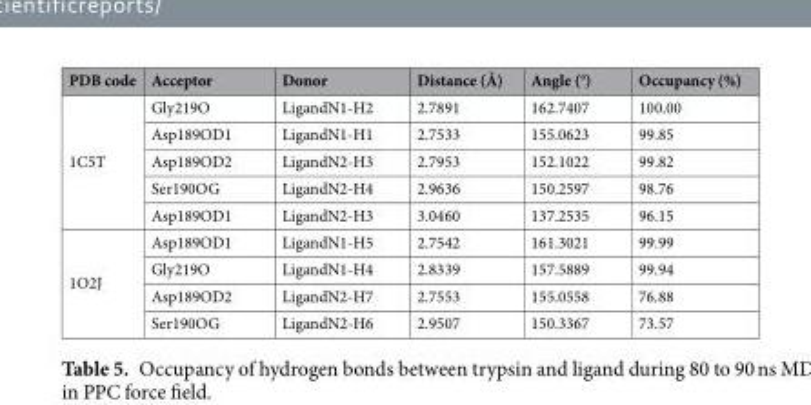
<table><thead><tr><td>PDB code</td><td>Acceptor</td><td>Donor</td><td>Distance (Å)</td><td>Angle (°)</td><td>Occupancy (%)</td></tr></thead><tbody><tr><td rowspan="5">1C5T</td><td>Gly219O</td><td>LigandN1-H2</td><td>2.7891</td><td>162.7407</td><td>100.00</td></tr><tr><td>Asp189OD1</td><td>LigandN1-H1</td><td>2.7533</td><td>155.0623</td><td>99.85</td></tr><tr><td>Asp189OD2</td><td>LigandN2-H3</td><td>2.7953</td><td>152.1022</td><td>99.82</td></tr><tr><td>Ser190OG</td><td>LigandN2-H4</td><td>2.9636</td><td>150.2597</td><td>98.76</td></tr><tr><td>Asp189OD1</td><td>LigandN2-H3</td><td>3.0460</td><td>137.2535</td><td>96.15</td></tr><tr><td rowspan="4">1O2J</td><td>Asp189OD1</td><td>LigandN1-H5</td><td>2.7542</td><td>161.3021</td><td>99.99</td></tr><tr><td>Gly219O</td><td>LigandN1-H4</td><td>2.8339</td><td>157.5889</td><td>99.94</td></tr><tr><td>Asp189OD2</td><td>LigandN2-H7</td><td>2.7553</td><td>155.0558</td><td>76.88</td></tr><tr><td>Ser190OG</td><td>LigandN2-H6</td><td>2.9507</td><td>150.3367</td><td>73.57</td></tr></tbody></table>